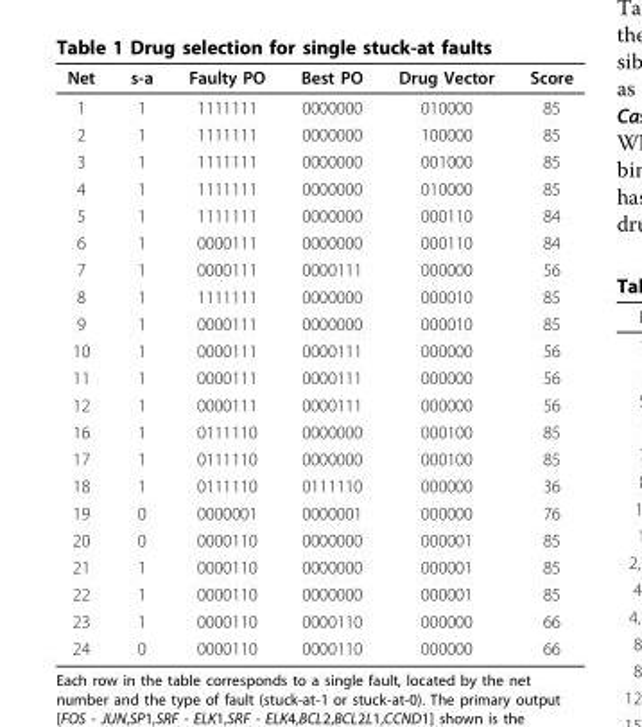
<table><thead><tr><td>Net</td><td>s-a</td><td>Faulty PO</td><td>Best PO</td><td>Drug Vector</td><td>Score</td></tr></thead><tbody><tr><td>1</td><td>1</td><td>1111111</td><td>0000000</td><td>010000</td><td>85</td></tr><tr><td>2</td><td>1</td><td>1111111</td><td>0000000</td><td>100000</td><td>85</td></tr><tr><td>3</td><td>1</td><td>1111111</td><td>0000000</td><td>001000</td><td>85</td></tr><tr><td>4</td><td>1</td><td>1111111</td><td>0000000</td><td>010000</td><td>85</td></tr><tr><td>5</td><td>1</td><td>1111111</td><td>0000000</td><td>000110</td><td>84</td></tr><tr><td>6</td><td>1</td><td>0000111</td><td>0000000</td><td>000110</td><td>84</td></tr><tr><td>7</td><td>1</td><td>0000111</td><td>0000111</td><td>000000</td><td>56</td></tr><tr><td>8</td><td>1</td><td>1111111</td><td>0000000</td><td>000010</td><td>85</td></tr><tr><td>9</td><td>1</td><td>0000111</td><td>0000000</td><td>000010</td><td>85</td></tr><tr><td>10</td><td>1</td><td>0000111</td><td>0000111</td><td>000000</td><td>56</td></tr><tr><td>11</td><td>1</td><td>0000111</td><td>0000111</td><td>000000</td><td>56</td></tr><tr><td>12</td><td>1</td><td>0000111</td><td>0000111</td><td>000000</td><td>56</td></tr><tr><td>16</td><td>1</td><td>0111110</td><td>0000000</td><td>000100</td><td>85</td></tr><tr><td>17</td><td>1</td><td>0111110</td><td>0000000</td><td>000100</td><td>85</td></tr><tr><td>18</td><td>1</td><td>0111110</td><td>0111110</td><td>000000</td><td>36</td></tr><tr><td>19</td><td>0</td><td>0000001</td><td>0000001</td><td>000000</td><td>76</td></tr><tr><td>20</td><td>0</td><td>0000110</td><td>0000000</td><td>000001</td><td>85</td></tr><tr><td>21</td><td>1</td><td>0000110</td><td>0000000</td><td>000001</td><td>85</td></tr><tr><td>22</td><td>1</td><td>0000110</td><td>0000000</td><td>000001</td><td>85</td></tr><tr><td>23</td><td>1</td><td>0000110</td><td>0000110</td><td>000000</td><td>66</td></tr><tr><td>24</td><td>0</td><td>0000110</td><td>0000110</td><td>000000</td><td>66</td></tr></tbody></table>